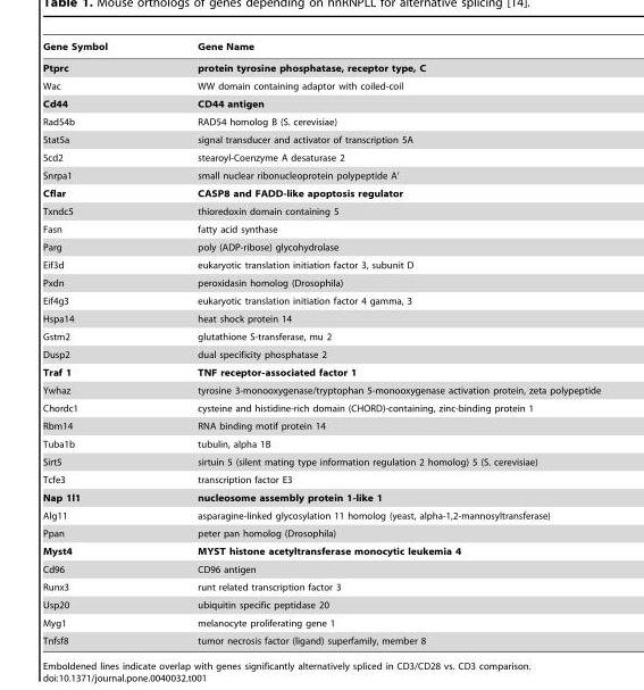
<table><thead><tr><td>Gene Symbol</td><td>Gene Name</td></tr></thead><tbody><tr><td>Ptprc</td><td>protein tyrosine phosphatase, receptor type, C</td></tr><tr><td>Wac</td><td>WW domain containing adaptor with coiled-coil</td></tr><tr><td>Cd44</td><td>CD44 antigen</td></tr><tr><td>Rad54b</td><td>RAD54 homolog B (S. cerevisiae)</td></tr><tr><td>Stat5a</td><td>signal transducer and activator of transcription 5A</td></tr><tr><td>Scd2</td><td>stearoyl-Coenzyme A desaturase 2</td></tr><tr><td>Snrpa1</td><td>small nuclear ribonucleoprotein polypeptide A’</td></tr><tr><td>Cflar</td><td>CASP8 and FADD-like apoptosis regulator</td></tr><tr><td>Txndc5</td><td>thioredoxin domain containing 5</td></tr><tr><td>Fasn</td><td>fatty acid synthase</td></tr><tr><td>Parg</td><td>poly (ADP-ribose) glycohydrolase</td></tr><tr><td>Eif3d</td><td>eukaryotic translation initiation factor 3, subunit D</td></tr><tr><td>Pxdn</td><td>peroxidasin homolog (Drosophila)</td></tr><tr><td>Eif4g3</td><td>eukaryotic translation initiation factor 4 gamma, 3</td></tr><tr><td>Hspa14</td><td>heat shock protein 14</td></tr><tr><td>Gstm2</td><td>glutathione S-transferase, mu 2</td></tr><tr><td>Dusp2</td><td>dual specificity phosphatase 2</td></tr><tr><td>Traf 1</td><td>TNF receptor-associated factor 1</td></tr><tr><td>Ywhaz</td><td>tyrosine 3-monooxygenase/tryptophan 5-monooxygenase activation protein, zeta polypeptide</td></tr><tr><td>Chordc1</td><td>cysteine and histidine-rich domain (CHORD)-containing, zinc-binding protein 1</td></tr><tr><td>Rbm14</td><td>RNA binding motif protein 14</td></tr><tr><td>Tuba1b</td><td>tubulin, alpha 1B</td></tr><tr><td>Sirt5</td><td>sirtuin 5 (silent mating type information regulation 2 homolog) 5 (S. cerevisiae)</td></tr><tr><td>Tcfe3</td><td>transcription factor E3</td></tr><tr><td>Nap 1l1</td><td>nucleosome assembly protein 1-like 1</td></tr><tr><td>Alg11</td><td>asparagine-linked glycosylation 11 homolog (yeast, alpha-1,2-mannosyltransferase)</td></tr><tr><td>Ppan</td><td>peter pan homolog (Drosophila)</td></tr><tr><td>Myst4</td><td>MYST histone acetyltransferase monocytic leukemia 4</td></tr><tr><td>Cd96</td><td>CD96 antigen</td></tr><tr><td>Runx3</td><td>runt related transcription factor 3</td></tr><tr><td>Usp20</td><td>ubiquitin specific peptidase 20</td></tr><tr><td>Myg1</td><td>melanocyte proliferating gene 1</td></tr><tr><td>Tnfsf8</td><td>tumor necrosis factor (ligand) superfamily, member 8</td></tr></tbody></table>